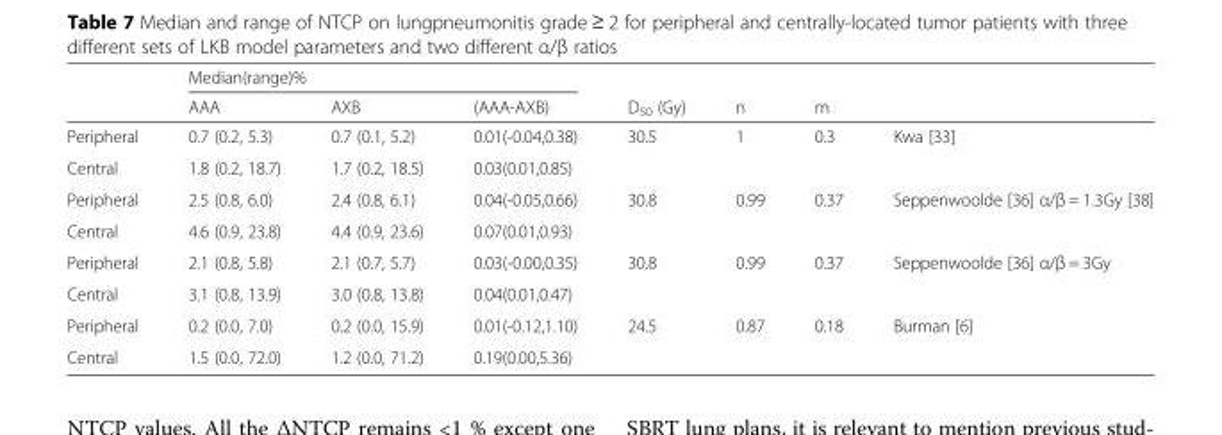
<table><thead><tr><td rowspan="2"></td><td colspan="3">Median(range)%</td><td rowspan="2">D<sub>50</sub> (Gy)</td><td rowspan="2">n</td><td rowspan="2">m</td><td rowspan="2"></td></tr><tr><td>AAA</td><td>AXB</td><td>(AAA-AXB)</td></tr></thead><tbody><tr><td>Peripheral</td><td>0.7 (0.2, 5.3)</td><td>0.7 (0.1, 5.2)</td><td>0.01(-0.04,0.38)</td><td rowspan="2">30.5</td><td rowspan="2">1</td><td rowspan="2">0.3</td><td rowspan="2">Kwa [33]</td></tr><tr><td>Central</td><td>1.8 (0.2, 18.7)</td><td>1.7 (0.2, 18.5)</td><td>0.03(0.01,0.85)</td></tr><tr><td>Peripheral</td><td>2.5 (0.8, 6.0)</td><td>2.4 (0.8, 6.1)</td><td>0.04(-0.05,0.66)</td><td rowspan="2">30.8</td><td rowspan="2">0.99</td><td rowspan="2">0.37</td><td rowspan="2">Seppenwoolde [36] α/β = 1.3Gy [38]</td></tr><tr><td>Central</td><td>4.6 (0.9, 23.8)</td><td>4.4 (0.9, 23.6)</td><td>0.07(0.01,0.93)</td></tr><tr><td>Peripheral</td><td>2.1 (0.8, 5.8)</td><td>2.1 (0.7, 5.7)</td><td>0.03(-0.00,0.35)</td><td rowspan="2">30.8</td><td rowspan="2">0.99</td><td rowspan="2">0.37</td><td rowspan="2">Seppenwoolde [36] α/β = 3Gy</td></tr><tr><td>Central</td><td>3.1 (0.8, 13.9)</td><td>3.0 (0.8, 13.8)</td><td>0.04(0.01,0.47)</td></tr><tr><td>Peripheral</td><td>0.2 (0.0, 7.0)</td><td>0.2 (0.0, 15.9)</td><td>0.01(-0.12,1.10)</td><td rowspan="2">24.5</td><td rowspan="2">0.87</td><td rowspan="2">0.18</td><td rowspan="2">Burman [6]</td></tr><tr><td>Central</td><td>1.5 (0.0, 72.0)</td><td>1.2 (0.0, 71.2)</td><td>0.19(0.00,5.36)</td></tr></tbody></table>